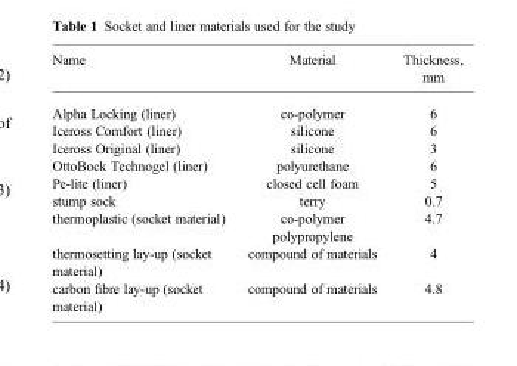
<table><thead><tr><td>Name</td><td>Material</td><td>Thickness, mm</td></tr></thead><tbody><tr><td>Alpha Locking (liner)</td><td>co-polymer</td><td>6</td></tr><tr><td>Iceross Comfort (liner)</td><td>silicone</td><td>6</td></tr><tr><td>Iceross Original (liner)</td><td>silicone</td><td>3</td></tr><tr><td>OttoBock Technogel (liner)</td><td>polyurethane</td><td>6</td></tr><tr><td>Pe-lite (liner)</td><td>closed cell foam</td><td>5</td></tr><tr><td>stump sock</td><td>terry</td><td>0.7</td></tr><tr><td>thermoplastic (socket material)</td><td>co-polymer polypropylene</td><td>4.7</td></tr><tr><td>thermosetting lay-up (socket material)</td><td>compound of materials</td><td>4</td></tr><tr><td>carbon fibre lay-up (socket material)</td><td>compound of materials</td><td>4.8</td></tr></tbody></table>